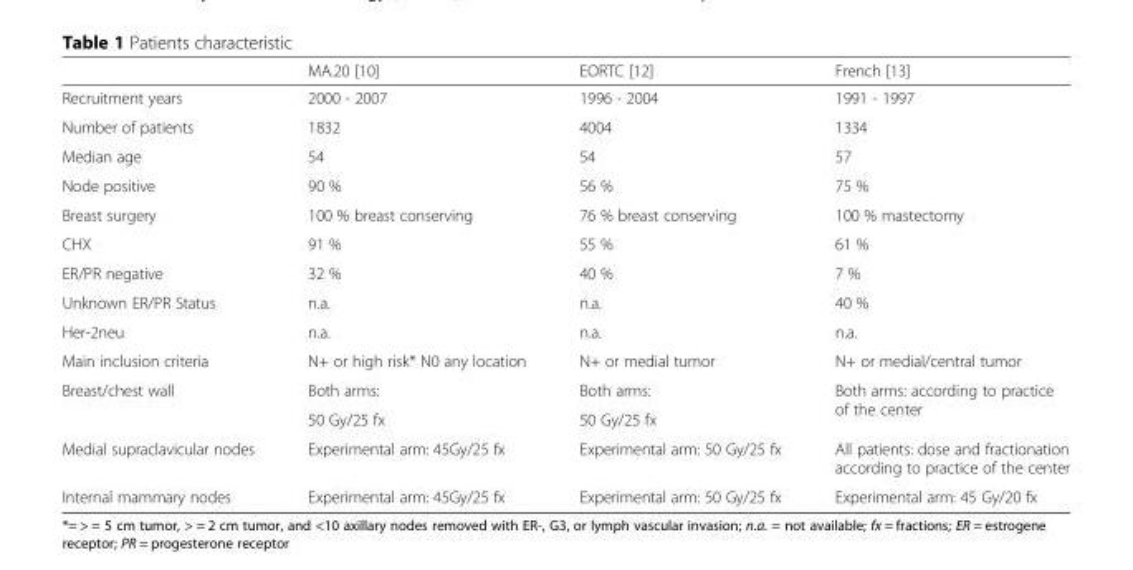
<table><thead><tr><td></td><td>MA.20 [10]</td><td>EORTC [12]</td><td>French [13]</td></tr></thead><tbody><tr><td>Recruitment years</td><td>2000 - 2007</td><td>1996 - 2004</td><td>1991 - 1997</td></tr><tr><td>Number of patients</td><td>1832</td><td>4004</td><td>1334</td></tr><tr><td>Median age</td><td>54</td><td>54</td><td>57</td></tr><tr><td>Node positive</td><td>90 %</td><td>56 %</td><td>75 %</td></tr><tr><td>Breast surgery</td><td>100 % breast conserving</td><td>76 % breast conserving</td><td>100 % mastectomy</td></tr><tr><td>CHX</td><td>91 %</td><td>55 %</td><td>61 %</td></tr><tr><td>ER/PR negative</td><td>32 %</td><td>40 %</td><td>7 %</td></tr><tr><td>Unknown ER/PR Status</td><td>n.a.</td><td>n.a.</td><td>40 %</td></tr><tr><td>Her-2neu</td><td>n.a.</td><td>n.a.</td><td>n.a.</td></tr><tr><td>Main inclusion criteria</td><td>N+ or high risk* N0 any location</td><td>N+ or medial tumor</td><td>N+ or medial/central tumor</td></tr><tr><td rowspan="2">Breast/chest wall</td><td>Both arms:</td><td>Both arms:</td><td rowspan="2">Both arms: according to practice of the center</td></tr><tr><td>50 Gy/25 fx</td><td>50 Gy/25 fx</td></tr><tr><td>Medial supraclavicular nodes</td><td>Experimental arm: 45Gy/25 fx</td><td>Experimental arm: 50 Gy/25 fx</td><td>All patients: dose and fractionation according to practice of the center</td></tr><tr><td>Internal mammary nodes</td><td>Experimental arm: 45Gy/25 fx</td><td>Experimental arm: 50 Gy/25 fx</td><td>Experimental arm: 45 Gy/20 fx</td></tr></tbody></table>